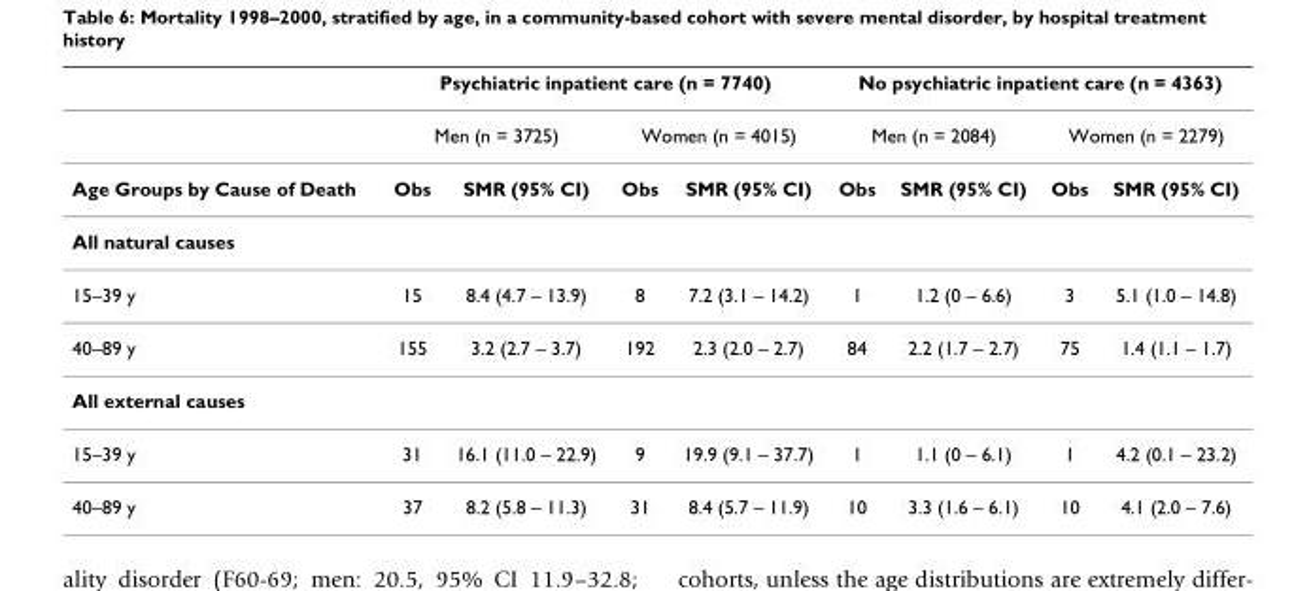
<table><thead><tr><td rowspan="3">Age Groups by Cause of Death</td><td colspan="4">Psychiatric inpatient care (n = 7740)</td><td colspan="4">No psychiatric inpatient care (n = 4363)</td></tr><tr><td colspan="2">Men (n = 3725)</td><td colspan="2">Women (n = 4015)</td><td colspan="2">Men (n = 2084)</td><td colspan="2">Women (n = 2279)</td></tr><tr><td>Obs</td><td>SMR (95% CI)</td><td>Obs</td><td>SMR (95% CI)</td><td>Obs</td><td>SMR (95% CI)</td><td>Obs</td><td>SMR (95% CI)</td></tr></thead><tbody><tr><td colspan="9">All natural causes</td></tr><tr><td>15–39 y</td><td>15</td><td>8.4 (4.7 – 13.9)</td><td>8</td><td>7.2 (3.1 – 14.2)</td><td>1</td><td>1.2 (0 – 6.6)</td><td>3</td><td>5.1 (1.0 – 14.8)</td></tr><tr><td>40–89 y</td><td>155</td><td>3.2 (2.7 – 3.7)</td><td>192</td><td>2.3 (2.0 – 2.7)</td><td>84</td><td>2.2 (1.7 – 2.7)</td><td>75</td><td>1.4 (1.1 – 1.7)</td></tr><tr><td colspan="9">All external causes</td></tr><tr><td>15–39 y</td><td>31</td><td>16.1 (11.0 – 22.9)</td><td>9</td><td>19.9 (9.1 – 37.7)</td><td>1</td><td>1.1 (0 – 6.1)</td><td>1</td><td>4.2 (0.1 – 23.2)</td></tr><tr><td>40–89 y</td><td>37</td><td>8.2 (5.8 – 11.3)</td><td>31</td><td>8.4 (5.7 – 11.9)</td><td>10</td><td>3.3 (1.6 – 6.1)</td><td>10</td><td>4.1 (2.0 – 7.6)</td></tr></tbody></table>